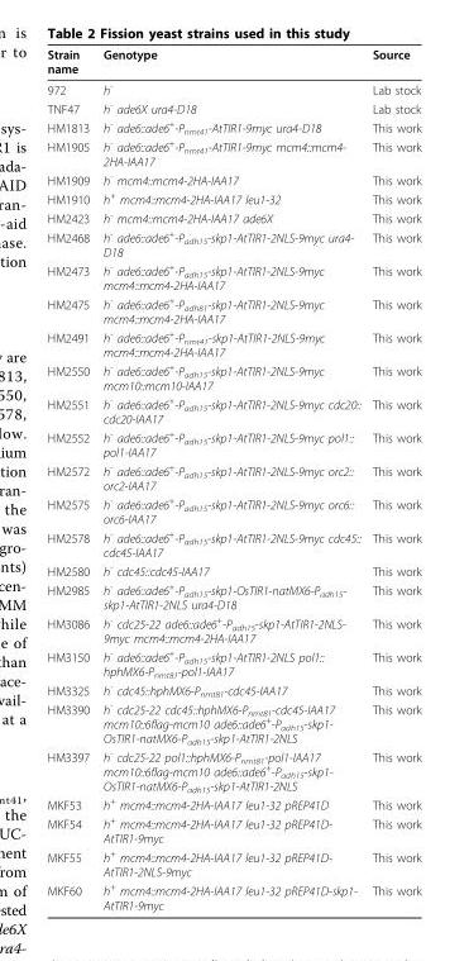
<table><thead><tr><td>Strain name</td><td>Genotype</td><td>Source</td></tr></thead><tbody><tr><td>972</td><td>h<sup>-</sup></td><td>Lab stock</td></tr><tr><td>TNF47</td><td>h<sup>-</sup> ade6X ura4-D18</td><td>Lab stock</td></tr><tr><td>HM1813</td><td>h<sup>-</sup> ade6::ade6<sup>+</sup>-P<sub>nmt41</sub>-AtTIR1-9myc ura4-D18</td><td>This work</td></tr><tr><td>HM1905</td><td>h<sup>-</sup> ade6::ade6<sup>+</sup>-P<sub>nmt41</sub>-AtTIR1-9myc mcm4::mcm4- 2HA-IAA17</td><td>This work</td></tr><tr><td>HM1909</td><td>h<sup>-</sup> mcm4::mcm4-2HA-IAA17</td><td>This work</td></tr><tr><td>HM1910</td><td>h<sup>+</sup> mcm4::mcm4-2HA-IAA17 leu1-32</td><td>This work</td></tr><tr><td>HM2423</td><td>h<sup>-</sup> mcm4::mcm4-2HA-IAA17 ade6X</td><td>This work</td></tr><tr><td>HM2468</td><td>h<sup>-</sup> ade6::ade6<sup>+</sup>-P<sub>adh15</sub>-skp1-AtTIR1-2NLS-9myc ura4- D18</td><td>This work</td></tr><tr><td>HM2473</td><td>h<sup>-</sup> ade6::ade6<sup>+</sup>-P<sub>adh15</sub>-skp1-AtTIR1-2NLS-9myc mcm4::mcm4-2HA-IAA17</td><td>This work</td></tr><tr><td>HM2475</td><td>h<sup>-</sup> ade6::ade6<sup>+</sup>-P<sub>adh81</sub>-skp1-AtTIR1-2NLS-9myc mcm4::mcm4-2HA-IAA17</td><td>This work</td></tr><tr><td>HM2491</td><td>h<sup>-</sup> ade6::ade6<sup>+</sup>-P<sub>nmt41</sub>-skp1-AtTIR1-2NLS-9myc mcm4::mcm4-2HA-IAA17</td><td>This work</td></tr><tr><td>HM2550</td><td>h<sup>-</sup> ade6::ade6<sup>+</sup>-P<sub>adh15</sub>-skp1-AtTIR1-2NLS-9myc mcm10::mcm10-IAA17</td><td>This work</td></tr><tr><td>HM2551</td><td>h<sup>-</sup> ade6::ade6<sup>+</sup>-P<sub>adh15</sub>-skp1-AtTIR1-2NLS-9myc cdc20:: cdc20-IAA17</td><td>This work</td></tr><tr><td>HM2552</td><td>h<sup>-</sup> ade6::ade6<sup>+</sup>-P<sub>adh15</sub>-skp1-AtTIR1-2NLS-9myc pol1:: pol1-IAA17</td><td>This work</td></tr><tr><td>HM2572</td><td>h<sup>-</sup> ade6::ade6<sup>+</sup>-P<sub>adh15</sub>-skp1-AtTIR1-2NLS-9myc orc2:: orc2-IAA17</td><td>This work</td></tr><tr><td>HM2575</td><td>h<sup>-</sup> ade6::ade6<sup>+</sup>-P<sub>adh15</sub>-skp1-AtTIR1-2NLS-9myc orc6:: orc6-IAA17</td><td>This work</td></tr><tr><td>HM2578</td><td>h<sup>-</sup> ade6::ade6<sup>+</sup>-P<sub>adh15</sub>-skp1-AtTIR1-2NLS-9myc cdc45:: cdc45-IAA17</td><td>This work</td></tr><tr><td>HM2580</td><td>h<sup>-</sup> cdc45::cdc45-IAA17</td><td>This work</td></tr><tr><td>HM2985</td><td>h<sup>-</sup> ade6::ade6<sup>+</sup>-P<sub>adh15</sub>-skp1-OsTIR1-natMX6-P<sub>adh15</sub>- skp1-AtTIR1-2NLS ura4-D18</td><td>This work</td></tr><tr><td>HM3086</td><td>h<sup>-</sup> cdc25-22 ade6::ade6<sup>+</sup>-P<sub>adh15</sub>-skp1-AtTIR1-2NLS- 9myc mcm4::mcm4-2HA-IAA17</td><td>This work</td></tr><tr><td>HM3150</td><td>h<sup>-</sup> ade6::ade6<sup>+</sup>-P<sub>adh15</sub>-skp1-AtTIR1-2NLS pol1:: hphMX6-P<sub>nmt81</sub>-pol1-IAA17</td><td>This work</td></tr><tr><td>HM3325</td><td>h<sup>-</sup> cdc45::hphMX6-P<sub>nmt81</sub>-cdc45-IAA17</td><td>This work</td></tr><tr><td>HM3390</td><td>h<sup>-</sup> cdc25-22 cdc45::hphMX6-P<sub>nmt81</sub>-cdc45-IAA17 mcm10::6flag-mcm10 ade6::ade6<sup>+</sup>-P<sub>adh15</sub>-skp1- OsTIR1-natMX6-P<sub>adh15</sub>-skp1-AtTIR1-2NLS</td><td>This work</td></tr><tr><td>HM3397</td><td>h<sup>-</sup> cdc25-22 pol1::hphMX6-P<sub>nmt81</sub>-pol1-IAA17 mcm10::6flag-mcm10 ade6::ade6<sup>+</sup>-P<sub>adh15</sub>-skp1- OsTIR1-natMX6-P<sub>adh15</sub>-skp1-AtTIR1-2NLS</td><td>This work</td></tr><tr><td>MKF53</td><td>h<sup>+</sup> mcm4::mcm4-2HA-IAA17 leu1-32 pREP41D</td><td>This work</td></tr><tr><td>MKF54</td><td>h<sup>+</sup> mcm4::mcm4-2HA-IAA17 leu1-32 pREP41D- AtTIR1-9myc</td><td>This work</td></tr><tr><td>MKF55</td><td>h<sup>+</sup> mcm4::mcm4-2HA-IAA17 leu1-32 pREP41D- AtTIR1-2NLS-9myc</td><td>This work</td></tr><tr><td>MKF60</td><td>h<sup>+</sup> mcm4::mcm4-2HA-IAA17 leu1-32 pREP41D-skp1- AtTIR1-9myc</td><td>This work</td></tr></tbody></table>